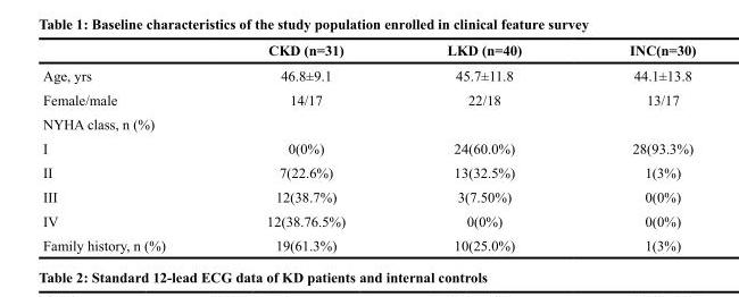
<table><thead><tr><td></td><td>CKD (n=31)</td><td>LKD (n=40)</td><td>INC(n=30)</td></tr></thead><tbody><tr><td>Age, yrs</td><td>46.8±9.1</td><td>45.7±11.8</td><td>44.1±13.8</td></tr><tr><td>Female/male</td><td>14/17</td><td>22/18</td><td>13/17</td></tr><tr><td colspan="4">NYHA class, n (%)</td></tr><tr><td>I</td><td>0(0%)</td><td>24(60.0%)</td><td>28(93.3%)</td></tr><tr><td>II</td><td>7(22.6%)</td><td>13(32.5%)</td><td>1(3%)</td></tr><tr><td>III</td><td>12(38.7%)</td><td>3(7.50%)</td><td>0(0%)</td></tr><tr><td>IV</td><td>12(38.76.5%)</td><td>0(0%)</td><td>0(0%)</td></tr><tr><td>Family history, n (%)</td><td>19(61.3%)</td><td>10(25.0%)</td><td>1(3%)</td></tr></tbody></table>